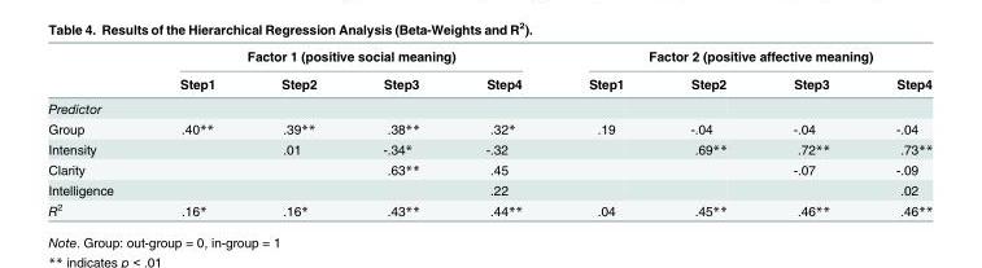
<table><thead><tr><td rowspan="2"></td><td colspan="4">Factor 1 (positive social meaning)</td><td colspan="4">Factor 2 (positive affective meaning)</td></tr><tr><td>Step1</td><td>Step2</td><td>Step3</td><td>Step4</td><td>Step1</td><td>Step2</td><td>Step3</td><td>Step4</td></tr></thead><tbody><tr><td colspan="9">Predictor</td></tr><tr><td>Group</td><td>.40**</td><td>.39**</td><td>.38**</td><td>.32*</td><td>.19</td><td>-.04</td><td>-.04</td><td>-.04</td></tr><tr><td>Intensity</td><td></td><td>.01</td><td>-.34*</td><td>-.32</td><td></td><td>.69**</td><td>.72**</td><td>.73**</td></tr><tr><td>Clarity</td><td></td><td></td><td>.63**</td><td>.45</td><td></td><td></td><td>-.07</td><td>-.09</td></tr><tr><td>Intelligence</td><td></td><td></td><td></td><td>.22</td><td></td><td></td><td></td><td>.02</td></tr><tr><td>R<sup>2</sup></td><td>.16*</td><td>.16*</td><td>.43**</td><td>.44**</td><td>.04</td><td>.45**</td><td>.46**</td><td>.46**</td></tr></tbody></table>